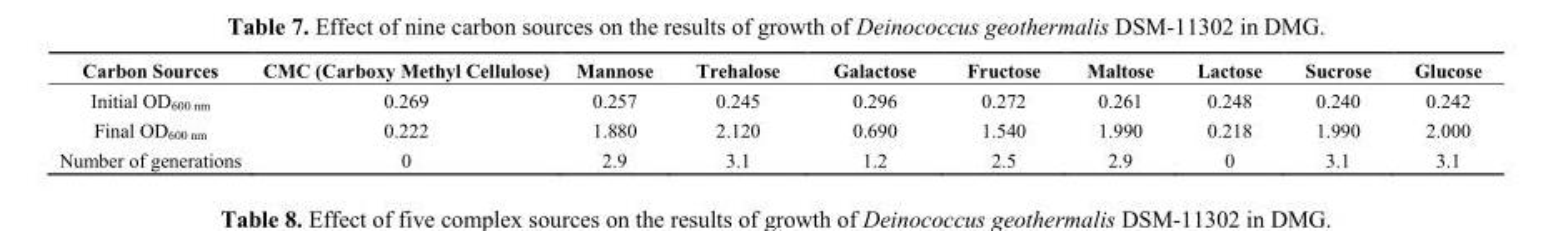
<table><thead><tr><td>Carbon Sources</td><td>CMC (Carboxy Methyl Cellulose)</td><td>Mannose</td><td>Trehalose</td><td>Galactose</td><td>Fructose</td><td>Maltose</td><td>Lactose</td><td>Sucrose</td><td>Glucose</td></tr></thead><tbody><tr><td>Initial OD<sub>600 nm</sub></td><td>0.269</td><td>0.257</td><td>0.245</td><td>0.296</td><td>0.272</td><td>0.261</td><td>0.248</td><td>0.240</td><td>0.242</td></tr><tr><td>Final OD<sub>600 nm</sub></td><td>0.222</td><td>1.880</td><td>2.120</td><td>0.690</td><td>1.540</td><td>1.990</td><td>0.218</td><td>1.990</td><td>2.000</td></tr><tr><td>Number of generations</td><td>0</td><td>2.9</td><td>3.1</td><td>1.2</td><td>2.5</td><td>2.9</td><td>0</td><td>3.1</td><td>3.1</td></tr></tbody></table>